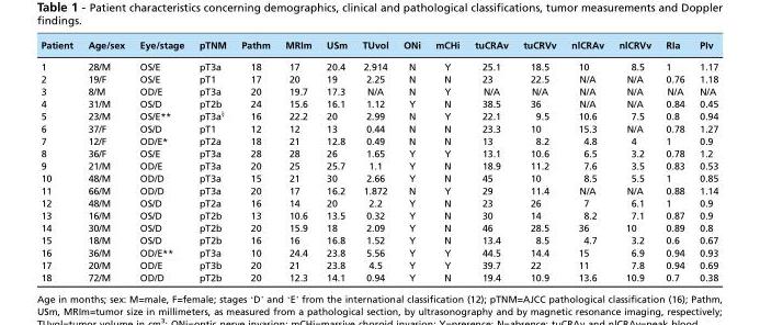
<table><thead><tr><td>Patient</td><td>Age/sex</td><td>Eye/stage</td><td>pTNM</td><td>Pathm</td><td>MRIm</td><td>USm</td><td>TUvol</td><td>ONi</td><td>mCHi</td><td>tuCRAv</td><td>tuCRVv</td><td>nlCRAv</td><td>nlCRVv</td><td>RIa</td><td>PIv</td></tr></thead><tbody><tr><td>1</td><td>28/M</td><td>OS/E</td><td>pT3a</td><td>18</td><td>17</td><td>20.4</td><td>2.914</td><td>N</td><td>Y</td><td>25.1</td><td>18.5</td><td>10</td><td>8.5</td><td>1</td><td>1.17</td></tr><tr><td>2</td><td>19/F</td><td>OS/E</td><td>pT1</td><td>17</td><td>20</td><td>19</td><td>2.25</td><td>N</td><td>N</td><td>23</td><td>22.5</td><td>N/A</td><td>N/A</td><td>0.76</td><td>1.18</td></tr><tr><td>3</td><td>8/M</td><td>OD/E</td><td>pT3a</td><td>20</td><td>19.7</td><td>17.3</td><td>N/A</td><td>N</td><td>Y</td><td>N/A</td><td>N/A</td><td>N/A</td><td>N/A</td><td>N/A</td><td>N/A</td></tr><tr><td>4</td><td>31/M</td><td>OS/D</td><td>pT2b</td><td>24</td><td>15.6</td><td>16.1</td><td>1.12</td><td>Y</td><td>N</td><td>38.5</td><td>36</td><td>N/A</td><td>N/A</td><td>0.84</td><td>0.45</td></tr><tr><td>5</td><td>23/M</td><td>OS/E**</td><td>pT3a§</td><td>16</td><td>22.2</td><td>20</td><td>2.99</td><td>N</td><td>Y</td><td>22.1</td><td>9.5</td><td>10.6</td><td>7.5</td><td>0.8</td><td>0.94</td></tr><tr><td>6</td><td>37/F</td><td>OS/D</td><td>pT1</td><td>12</td><td>12</td><td>13</td><td>0.44</td><td>N</td><td>N</td><td>23.3</td><td>10</td><td>15.3</td><td>N/A</td><td>0.78</td><td>1.27</td></tr><tr><td>7</td><td>12/F</td><td>OD/E*</td><td>pT2a</td><td>18</td><td>21</td><td>12.8</td><td>0.49</td><td>N</td><td>N</td><td>13</td><td>8.2</td><td>4.8</td><td>4</td><td>1</td><td>0.9</td></tr><tr><td>8</td><td>36/F</td><td>OS/E</td><td>pT3a</td><td>28</td><td>28</td><td>26</td><td>1.65</td><td>Y</td><td>Y</td><td>13.1</td><td>10.6</td><td>6.5</td><td>3.2</td><td>0.78</td><td>1.2</td></tr><tr><td>9</td><td>21/M</td><td>OD/E</td><td>pT3a</td><td>20</td><td>25</td><td>25.7</td><td>1.1</td><td>Y</td><td>N</td><td>18.9</td><td>11.2</td><td>7.6</td><td>3.5</td><td>0.83</td><td>0.53</td></tr><tr><td>10</td><td>48/M</td><td>OD/D</td><td>pT3a</td><td>15</td><td>21</td><td>30</td><td>2.66</td><td>Y</td><td>N</td><td>45</td><td>10</td><td>8.5</td><td>5.5</td><td>1</td><td>0.85</td></tr><tr><td>11</td><td>66/M</td><td>OD/D</td><td>pT3a</td><td>20</td><td>17</td><td>16.2</td><td>1.872</td><td>N</td><td>Y</td><td>29</td><td>11.4</td><td>N/A</td><td>N/A</td><td>0.88</td><td>1.14</td></tr><tr><td>12</td><td>48/M</td><td>OS/D</td><td>pT2a</td><td>16</td><td>14</td><td>20</td><td>2.2</td><td>Y</td><td>N</td><td>23</td><td>26</td><td>7</td><td>6.1</td><td>1</td><td>0.9</td></tr><tr><td>13</td><td>16/M</td><td>OS/D</td><td>pT2b</td><td>13</td><td>10.6</td><td>13.5</td><td>0.32</td><td>Y</td><td>N</td><td>30</td><td>14</td><td>8.2</td><td>7.1</td><td>0.87</td><td>0.9</td></tr><tr><td>14</td><td>30/M</td><td>OS/D</td><td>pT2b</td><td>20</td><td>15.9</td><td>18</td><td>2.09</td><td>Y</td><td>N</td><td>46</td><td>28.5</td><td>36</td><td>10</td><td>0.89</td><td>0.8</td></tr><tr><td>15</td><td>18/M</td><td>OS/D</td><td>pT2b</td><td>16</td><td>16</td><td>16.8</td><td>1.52</td><td>Y</td><td>N</td><td>13.4</td><td>8.5</td><td>4.7</td><td>3.2</td><td>0.6</td><td>0.67</td></tr><tr><td>16</td><td>36/M</td><td>OD/E**</td><td>pT3a</td><td>10</td><td>24.4</td><td>23.8</td><td>5.56</td><td>Y</td><td>Y</td><td>44.5</td><td>14.4</td><td>15</td><td>6.9</td><td>0.94</td><td>0.93</td></tr><tr><td>17</td><td>20/M</td><td>OD/E</td><td>pT3b</td><td>20</td><td>21</td><td>23.8</td><td>4.5</td><td>Y</td><td>Y</td><td>39.7</td><td>22</td><td>11</td><td>7.8</td><td>0.94</td><td>0.69</td></tr><tr><td>18</td><td>72/M</td><td>OD/D</td><td>pT2b</td><td>20</td><td>12.3</td><td>14.1</td><td>0.94</td><td>Y</td><td>N</td><td>19.4</td><td>10.9</td><td>13.6</td><td>10.9</td><td>0.7</td><td>0.38</td></tr></tbody></table>